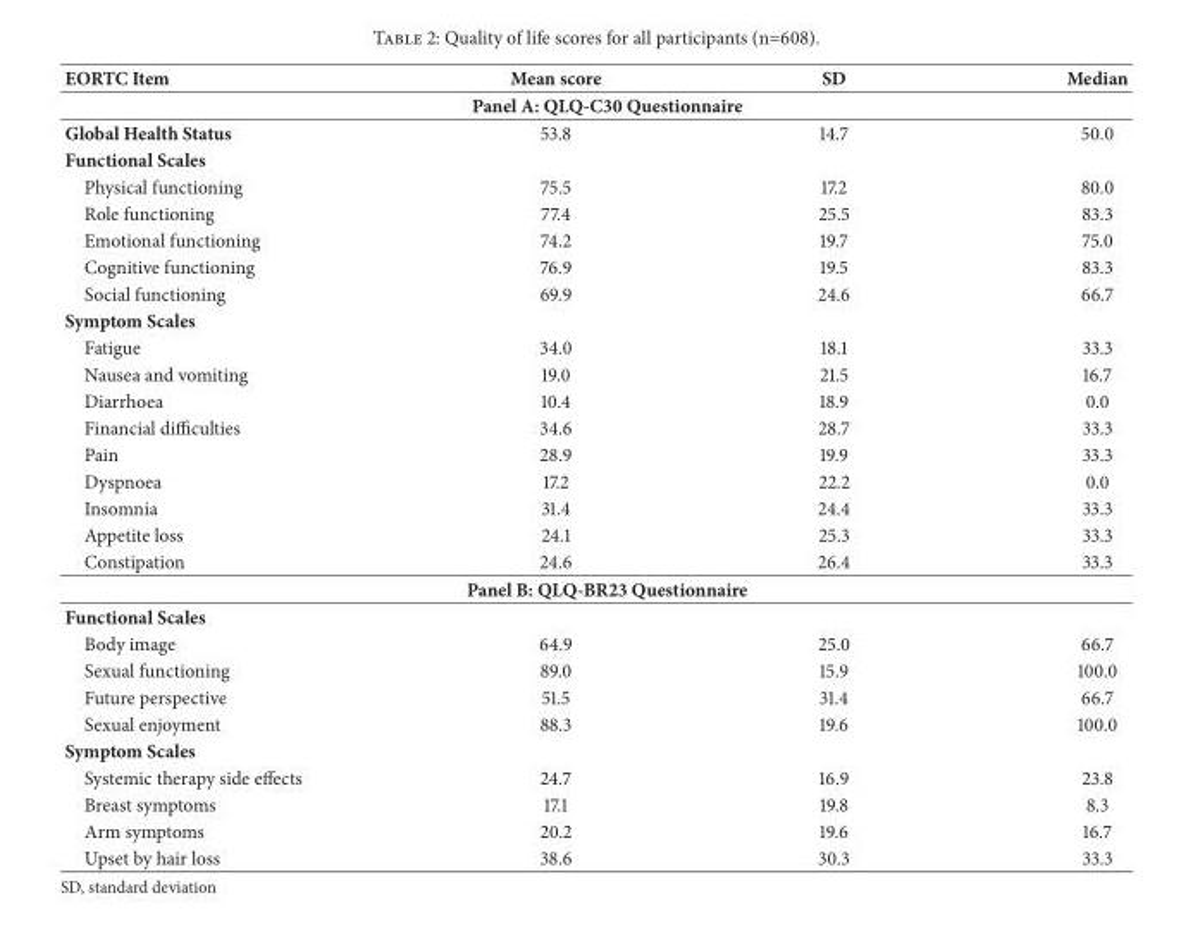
<table><thead><tr><td>EORTC Item</td><td>Mean score</td><td>SD</td><td>Median</td></tr></thead><tbody><tr><td colspan="4">Panel A: QLQ-C30 Questionnaire</td></tr><tr><td>Global Health Status</td><td>53.8</td><td>14.7</td><td>50.0</td></tr><tr><td colspan="4">Functional Scales</td></tr><tr><td>Physical functioning</td><td>75.5</td><td>17.2</td><td>80.0</td></tr><tr><td>Role functioning</td><td>77.4</td><td>25.5</td><td>83.3</td></tr><tr><td>Emotional functioning</td><td>74.2</td><td>19.7</td><td>75.0</td></tr><tr><td>Cognitive functioning</td><td>76.9</td><td>19.5</td><td>83.3</td></tr><tr><td>Social functioning</td><td>69.9</td><td>24.6</td><td>66.7</td></tr><tr><td colspan="4">Symptom Scales</td></tr><tr><td>Fatigue</td><td>34.0</td><td>18.1</td><td>33.3</td></tr><tr><td>Nausea and vomiting</td><td>19.0</td><td>21.5</td><td>16.7</td></tr><tr><td>Diarrhoea</td><td>10.4</td><td>18.9</td><td>0.0</td></tr><tr><td>Financial difficulties</td><td>34.6</td><td>28.7</td><td>33.3</td></tr><tr><td>Pain</td><td>28.9</td><td>19.9</td><td>33.3</td></tr><tr><td>Dyspnoea</td><td>17.2</td><td>22.2</td><td>0.0</td></tr><tr><td>Insomnia</td><td>31.4</td><td>24.4</td><td>33.3</td></tr><tr><td>Appetite loss</td><td>24.1</td><td>25.3</td><td>33.3</td></tr><tr><td>Constipation</td><td>24.6</td><td>26.4</td><td>33.3</td></tr><tr><td colspan="4">Panel B: QLQ-BR23 Questionnaire</td></tr><tr><td colspan="4">Functional Scales</td></tr><tr><td>Body image</td><td>64.9</td><td>25.0</td><td>66.7</td></tr><tr><td>Sexual functioning</td><td>89.0</td><td>15.9</td><td>100.0</td></tr><tr><td>Future perspective</td><td>51.5</td><td>31.4</td><td>66.7</td></tr><tr><td>Sexual enjoyment</td><td>88.3</td><td>19.6</td><td>100.0</td></tr><tr><td colspan="4">Symptom Scales</td></tr><tr><td>Systemic therapy side effects</td><td>24.7</td><td>16.9</td><td>23.8</td></tr><tr><td>Breast symptoms</td><td>17.1</td><td>19.8</td><td>8.3</td></tr><tr><td>Arm symptoms</td><td>20.2</td><td>19.6</td><td>16.7</td></tr><tr><td>Upset by hair loss</td><td>38.6</td><td>30.3</td><td>33.3</td></tr></tbody></table>